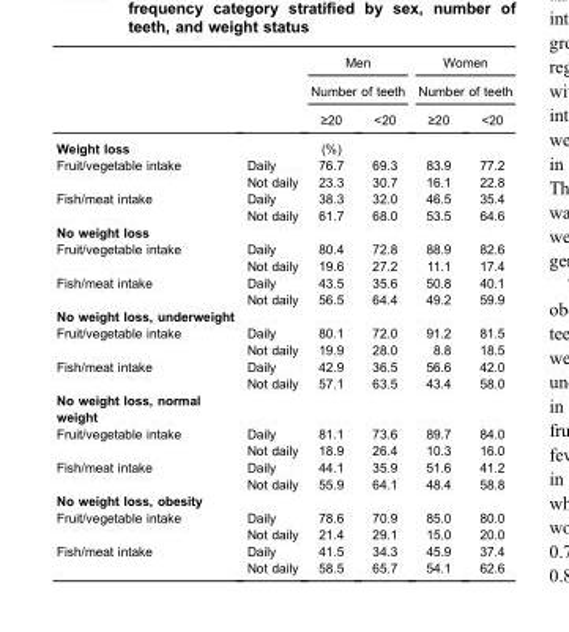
<table><thead><tr><td rowspan="3"></td><td rowspan="3"></td><td rowspan="2" colspan="2">Men Number of teeth</td><td rowspan="2" colspan="2">Women Number of teeth</td></tr><tr></tr><tr><td>≥20</td><td>&lt;20</td><td>≥20</td><td>&lt;20</td></tr></thead><tbody><tr><td>Weight loss</td><td></td><td>(%)</td><td></td><td></td><td></td></tr><tr><td rowspan="2">Fruit/vegetable intake</td><td>Daily</td><td>76.7</td><td>69.3</td><td>83.9</td><td>77.2</td></tr><tr><td>Not daily</td><td>23.3</td><td>30.7</td><td>16.1</td><td>22.8</td></tr><tr><td rowspan="2">Fish/meat intake</td><td>Daily</td><td>38.3</td><td>32.0</td><td>46.5</td><td>35.4</td></tr><tr><td>Not daily</td><td>61.7</td><td>68.0</td><td>53.5</td><td>64.6</td></tr><tr><td colspan="6">No weight loss</td></tr><tr><td rowspan="2">Fruit/vegetable intake</td><td>Daily</td><td>80.4</td><td>72.8</td><td>88.9</td><td>82.6</td></tr><tr><td>Not daily</td><td>19.6</td><td>27.2</td><td>11.1</td><td>17.4</td></tr><tr><td rowspan="2">Fish/meat intake</td><td>Daily</td><td>43.5</td><td>35.6</td><td>50.8</td><td>40.1</td></tr><tr><td>Not daily</td><td>56.5</td><td>64.4</td><td>49.2</td><td>59.9</td></tr><tr><td colspan="6">No weight loss, underweight</td></tr><tr><td rowspan="2">Fruit/vegetable intake</td><td>Daily</td><td>80.1</td><td>72.0</td><td>91.2</td><td>81.5</td></tr><tr><td>Not daily</td><td>19.9</td><td>28.0</td><td>8.8</td><td>18.5</td></tr><tr><td rowspan="2">Fish/meat intake</td><td>Daily</td><td>42.9</td><td>36.5</td><td>56.6</td><td>42.0</td></tr><tr><td>Not daily</td><td>57.1</td><td>63.5</td><td>43.4</td><td>58.0</td></tr><tr><td colspan="6">No weight loss, normal weight</td></tr><tr><td rowspan="2">Fruit/vegetable intake</td><td>Daily</td><td>81.1</td><td>73.6</td><td>89.7</td><td>84.0</td></tr><tr><td>Not daily</td><td>18.9</td><td>26.4</td><td>10.3</td><td>16.0</td></tr><tr><td rowspan="2">Fish/meat intake</td><td>Daily</td><td>44.1</td><td>35.9</td><td>51.6</td><td>41.2</td></tr><tr><td>Not daily</td><td>55.9</td><td>64.1</td><td>48.4</td><td>58.8</td></tr><tr><td colspan="6">No weight loss, obesity</td></tr><tr><td rowspan="2">Fruit/vegetable intake</td><td>Daily</td><td>78.6</td><td>70.9</td><td>85.0</td><td>80.0</td></tr><tr><td>Not daily</td><td>21.4</td><td>29.1</td><td>15.0</td><td>20.0</td></tr><tr><td rowspan="2">Fish/meat intake</td><td>Daily</td><td>41.5</td><td>34.3</td><td>45.9</td><td>37.4</td></tr><tr><td>Not daily</td><td>58.5</td><td>65.7</td><td>54.1</td><td>62.6</td></tr></tbody></table>